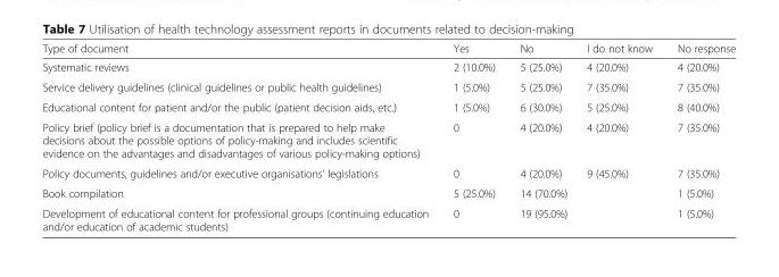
<table><thead><tr><td>Type of document</td><td>Yes</td><td>No</td><td>I do not know</td><td>No response</td></tr></thead><tbody><tr><td>Systematic reviews</td><td>2 (10.0%)</td><td>5 (25.0%)</td><td>4 (20.0%)</td><td>4 (20.0%)</td></tr><tr><td>Service delivery guidelines (clinical guidelines or public health guidelines)</td><td>1 (5.0%)</td><td>5 (25.0%)</td><td>7 (35.0%)</td><td>7 (35.0%)</td></tr><tr><td>Educational content for patient and/or the public (patient decision aids, etc.)</td><td>1 (5.0%)</td><td>6 (30.0%)</td><td>5 (25.0%)</td><td>8 (40.0%)</td></tr><tr><td>Policy brief (policy brief is a documentation that is prepared to help make decisions about the possible options of policy-making and includes scientific evidence on the advantages and disadvantages of various policy-making options)</td><td>0</td><td>4 (20.0%)</td><td>4 (20.0%)</td><td>7 (35.0%)</td></tr><tr><td>Policy documents, guidelines and/or executive organisations’ legislations</td><td>0</td><td>4 (20.0%)</td><td>9 (45.0%)</td><td>7 (35.0%)</td></tr><tr><td>Book compilation</td><td>5 (25.0%)</td><td colspan="2">14 (70.0%)</td><td>1 (5.0%)</td></tr><tr><td>Development of educational content for professional groups (continuing education and/or education of academic students)</td><td>0</td><td colspan="2">19 (95.0%)</td><td>1 (5.0%)</td></tr></tbody></table>